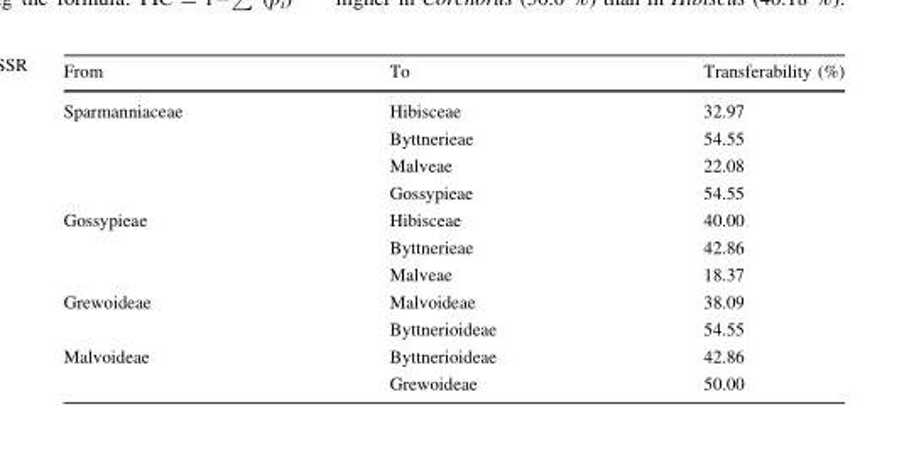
<table><thead><tr><td>From</td><td>To</td><td>Transferability (%)</td></tr></thead><tbody><tr><td rowspan="4">Sparmanniaceae</td><td>Hibisceae</td><td>32.97</td></tr><tr><td>Byttnerieae</td><td>54.55</td></tr><tr><td>Malveae</td><td>22.08</td></tr><tr><td>Gossypieae</td><td>54.55</td></tr><tr><td rowspan="3">Gossypieae</td><td>Hibisceae</td><td>40.00</td></tr><tr><td>Byttnerieae</td><td>42.86</td></tr><tr><td>Malveae</td><td>18.37</td></tr><tr><td rowspan="2">Grewoideae</td><td>Malvoideae</td><td>38.09</td></tr><tr><td>Byttnerioideae</td><td>54.55</td></tr><tr><td rowspan="2">Malvoideae</td><td>Byttnerioideae</td><td>42.86</td></tr><tr><td>Grewoideae</td><td>50.00</td></tr></tbody></table>